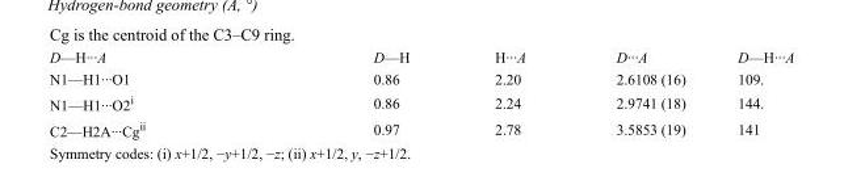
<table><tbody><tr><td>D—H···A</td><td>D—H</td><td>H···A</td><td>D···A</td><td>D—H···A</td></tr><tr><td>N1—H1···O1</td><td>0.86</td><td>2.20</td><td>2.6108 (16)</td><td>109.</td></tr><tr><td>N1—H1···O2<sup>i</sup></td><td>0.86</td><td>2.24</td><td>2.9741 (18)</td><td>144.</td></tr><tr><td>C2—H2A···Cg<sup>ii</sup></td><td>0.97</td><td>2.78</td><td>3.5853 (19)</td><td>141</td></tr></tbody></table>